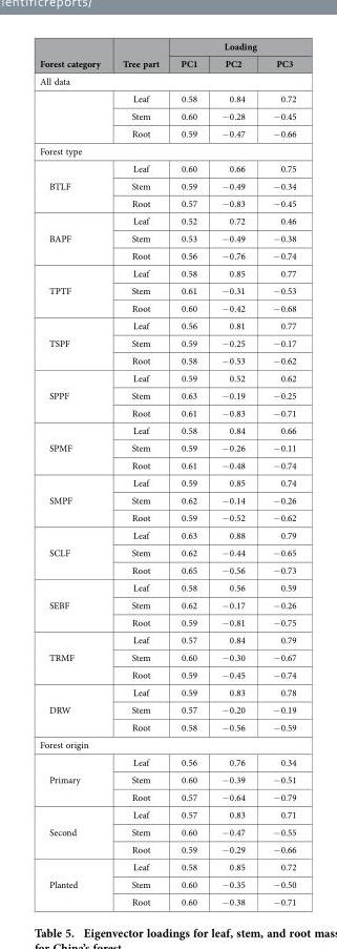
<table><thead><tr><td rowspan="2">Forest category</td><td rowspan="2">Tree part</td><td colspan="3">Loading</td></tr><tr><td>PC1</td><td>PC2</td><td>PC3</td></tr></thead><tbody><tr><td colspan="5">All data</td></tr><tr><td rowspan="3"></td><td>Leaf</td><td>0.58</td><td>0.84</td><td>0.72</td></tr><tr><td>Stem</td><td>0.60</td><td>− 0.28</td><td>− 0.45</td></tr><tr><td>Root</td><td>0.59</td><td>− 0.47</td><td>− 0.66</td></tr><tr><td colspan="5">Forest type</td></tr><tr><td rowspan="3">BTLF</td><td>Leaf</td><td>0.60</td><td>0.66</td><td>0.75</td></tr><tr><td>Stem</td><td>0.59</td><td>− 0.49</td><td>− 0.34</td></tr><tr><td>Root</td><td>0.57</td><td>− 0.83</td><td>− 0.45</td></tr><tr><td rowspan="3">BAPF</td><td>Leaf</td><td>0.52</td><td>0.72</td><td>0.46</td></tr><tr><td>Stem</td><td>0.53</td><td>− 0.49</td><td>− 0.38</td></tr><tr><td>Root</td><td>0.56</td><td>− 0.76</td><td>− 0.74</td></tr><tr><td rowspan="3">TPTF</td><td>Leaf</td><td>0.58</td><td>0.85</td><td>0.77</td></tr><tr><td>Stem</td><td>0.61</td><td>− 0.31</td><td>− 0.53</td></tr><tr><td>Root</td><td>0.60</td><td>− 0.42</td><td>− 0.68</td></tr><tr><td rowspan="3">TSPF</td><td>Leaf</td><td>0.56</td><td>0.81</td><td>0.77</td></tr><tr><td>Stem</td><td>0.59</td><td>− 0.25</td><td>− 0.17</td></tr><tr><td>Root</td><td>0.58</td><td>− 0.53</td><td>− 0.62</td></tr><tr><td rowspan="3">SPPF</td><td>Leaf</td><td>0.59</td><td>0.52</td><td>0.62</td></tr><tr><td>Stem</td><td>0.63</td><td>− 0.19</td><td>− 0.25</td></tr><tr><td>Root</td><td>0.61</td><td>− 0.83</td><td>− 0.71</td></tr><tr><td rowspan="3">SPMF</td><td>Leaf</td><td>0.58</td><td>0.84</td><td>0.66</td></tr><tr><td>Stem</td><td>0.59</td><td>− 0.26</td><td>− 0.11</td></tr><tr><td>Root</td><td>0.61</td><td>− 0.48</td><td>− 0.74</td></tr><tr><td rowspan="3">SMPF</td><td>Leaf</td><td>0.59</td><td>0.85</td><td>0.74</td></tr><tr><td>Stem</td><td>0.62</td><td>− 0.14</td><td>− 0.26</td></tr><tr><td>Root</td><td>0.59</td><td>− 0.52</td><td>− 0.62</td></tr><tr><td rowspan="3">SCLF</td><td>Leaf</td><td>0.63</td><td>0.88</td><td>0.79</td></tr><tr><td>Stem</td><td>0.62</td><td>− 0.44</td><td>− 0.65</td></tr><tr><td>Root</td><td>0.65</td><td>− 0.56</td><td>− 0.73</td></tr><tr><td rowspan="3">SEBF</td><td>Leaf</td><td>0.58</td><td>0.56</td><td>0.59</td></tr><tr><td>Stem</td><td>0.62</td><td>− 0.17</td><td>− 0.26</td></tr><tr><td>Root</td><td>0.59</td><td>− 0.81</td><td>− 0.75</td></tr><tr><td rowspan="3">TRMF</td><td>Leaf</td><td>0.57</td><td>0.84</td><td>0.79</td></tr><tr><td>Stem</td><td>0.60</td><td>− 0.30</td><td>− 0.67</td></tr><tr><td>Root</td><td>0.59</td><td>− 0.45</td><td>− 0.74</td></tr><tr><td rowspan="3">DRW</td><td>Leaf</td><td>0.59</td><td>0.83</td><td>0.78</td></tr><tr><td>Stem</td><td>0.57</td><td>− 0.20</td><td>− 0.19</td></tr><tr><td>Root</td><td>0.58</td><td>− 0.56</td><td>− 0.59</td></tr><tr><td colspan="5">Forest origin</td></tr><tr><td rowspan="3">Primary</td><td>Leaf</td><td>0.56</td><td>0.76</td><td>0.34</td></tr><tr><td>Stem</td><td>0.60</td><td>− 0.39</td><td>− 0.51</td></tr><tr><td>Root</td><td>0.57</td><td>− 0.64</td><td>− 0.79</td></tr><tr><td rowspan="3">Second</td><td>Leaf</td><td>0.57</td><td>0.83</td><td>0.71</td></tr><tr><td>Stem</td><td>0.60</td><td>− 0.47</td><td>− 0.55</td></tr><tr><td>Root</td><td>0.59</td><td>− 0.29</td><td>− 0.66</td></tr><tr><td rowspan="3">Planted</td><td>Leaf</td><td>0.58</td><td>0.85</td><td>0.72</td></tr><tr><td>Stem</td><td>0.60</td><td>− 0.35</td><td>− 0.50</td></tr><tr><td>Root</td><td>0.60</td><td>− 0.38</td><td>− 0.71</td></tr></tbody></table>